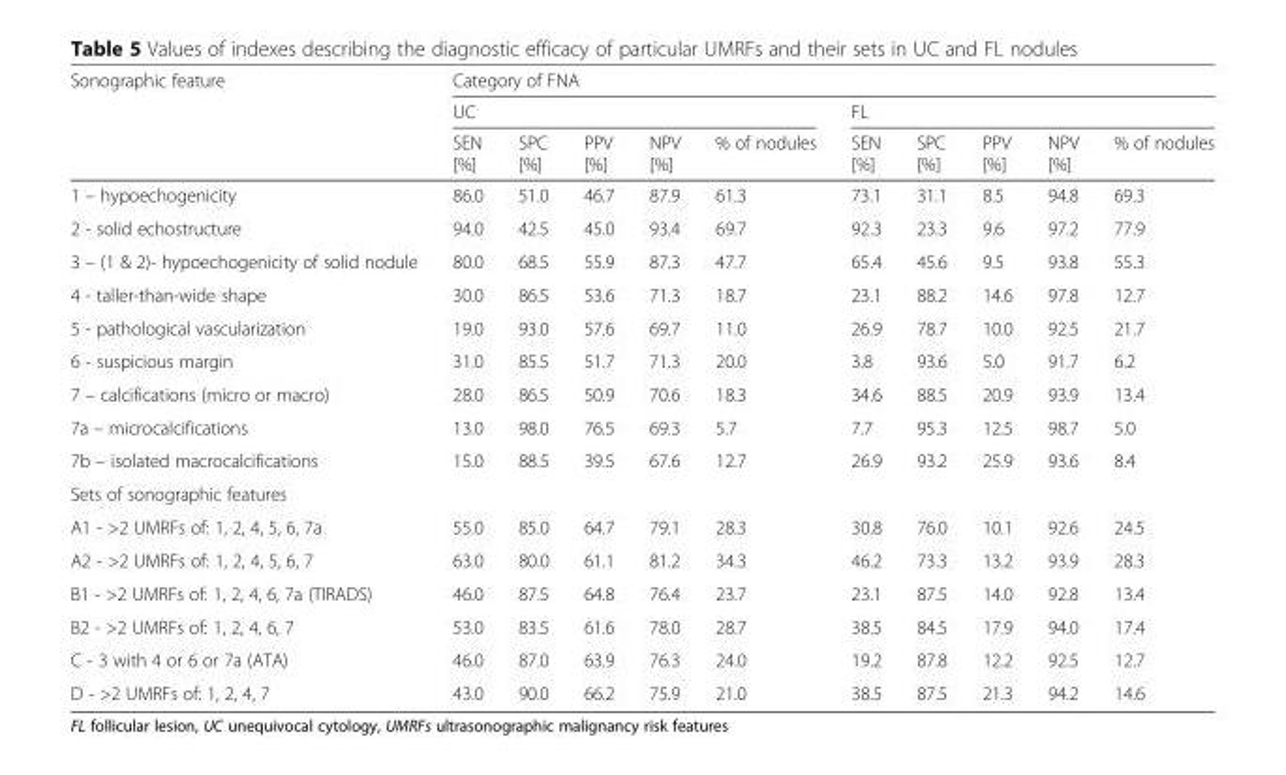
<table><thead><tr><td rowspan="3">Sonographic feature</td><td colspan="10">Category of FNA</td></tr><tr><td colspan="5">UC</td><td colspan="5">FL</td></tr><tr><td>SEN [%]</td><td>SPC [%]</td><td>PPV [%]</td><td>NPV [%]</td><td>% of nodules</td><td>SEN [%]</td><td>SPC [%]</td><td>PPV [%]</td><td>NPV [%]</td><td>% of nodules</td></tr></thead><tbody><tr><td>1 – hypoechogenicity</td><td>86.0</td><td>51.0</td><td>46.7</td><td>87.9</td><td>61.3</td><td>73.1</td><td>31.1</td><td>8.5</td><td>94.8</td><td>69.3</td></tr><tr><td>2 - solid echostructure</td><td>94.0</td><td>42.5</td><td>45.0</td><td>93.4</td><td>69.7</td><td>92.3</td><td>23.3</td><td>9.6</td><td>97.2</td><td>77.9</td></tr><tr><td>3 – (1 &amp; 2)- hypoechogenicity of solid nodule</td><td>80.0</td><td>68.5</td><td>55.9</td><td>87.3</td><td>47.7</td><td>65.4</td><td>45.6</td><td>9.5</td><td>93.8</td><td>55.3</td></tr><tr><td>4 - taller-than-wide shape</td><td>30.0</td><td>86.5</td><td>53.6</td><td>71.3</td><td>18.7</td><td>23.1</td><td>88.2</td><td>14.6</td><td>97.8</td><td>12.7</td></tr><tr><td>5 - pathological vascularization</td><td>19.0</td><td>93.0</td><td>57.6</td><td>69.7</td><td>11.0</td><td>26.9</td><td>78.7</td><td>10.0</td><td>92.5</td><td>21.7</td></tr><tr><td>6 - suspicious margin</td><td>31.0</td><td>85.5</td><td>51.7</td><td>71.3</td><td>20.0</td><td>3.8</td><td>93.6</td><td>5.0</td><td>91.7</td><td>6.2</td></tr><tr><td>7 – calcifications (micro or macro)</td><td>28.0</td><td>86.5</td><td>50.9</td><td>70.6</td><td>18.3</td><td>34.6</td><td>88.5</td><td>20.9</td><td>93.9</td><td>13.4</td></tr><tr><td>7a – microcalcifications</td><td>13.0</td><td>98.0</td><td>76.5</td><td>69.3</td><td>5.7</td><td>7.7</td><td>95.3</td><td>12.5</td><td>98.7</td><td>5.0</td></tr><tr><td>7b – isolated macrocalcifications</td><td>15.0</td><td>88.5</td><td>39.5</td><td>67.6</td><td>12.7</td><td>26.9</td><td>93.2</td><td>25.9</td><td>93.6</td><td>8.4</td></tr><tr><td colspan="11">Sets of sonographic features</td></tr><tr><td>A1 - &gt;2 UMRFs of: 1, 2, 4, 5, 6, 7a</td><td>55.0</td><td>85.0</td><td>64.7</td><td>79.1</td><td>28.3</td><td>30.8</td><td>76.0</td><td>10.1</td><td>92.6</td><td>24.5</td></tr><tr><td>A2 - &gt;2 UMRFs of: 1, 2, 4, 5, 6, 7</td><td>63.0</td><td>80.0</td><td>61.1</td><td>81.2</td><td>34.3</td><td>46.2</td><td>73.3</td><td>13.2</td><td>93.9</td><td>28.3</td></tr><tr><td>B1 - &gt;2 UMRFs of: 1, 2, 4, 6, 7a (TIRADS)</td><td>46.0</td><td>87.5</td><td>64.8</td><td>76.4</td><td>23.7</td><td>23.1</td><td>87.5</td><td>14.0</td><td>92.8</td><td>13.4</td></tr><tr><td>B2 - &gt;2 UMRFs of: 1, 2, 4, 6, 7</td><td>53.0</td><td>83.5</td><td>61.6</td><td>78.0</td><td>28.7</td><td>38.5</td><td>84.5</td><td>17.9</td><td>94.0</td><td>17.4</td></tr><tr><td>C - 3 with 4 or 6 or 7a (ATA)</td><td>46.0</td><td>87.0</td><td>63.9</td><td>76.3</td><td>24.0</td><td>19.2</td><td>87.8</td><td>12.2</td><td>92.5</td><td>12.7</td></tr><tr><td>D - &gt;2 UMRFs of: 1, 2, 4, 7</td><td>43.0</td><td>90.0</td><td>66.2</td><td>75.9</td><td>21.0</td><td>38.5</td><td>87.5</td><td>21.3</td><td>94.2</td><td>14.6</td></tr></tbody></table>